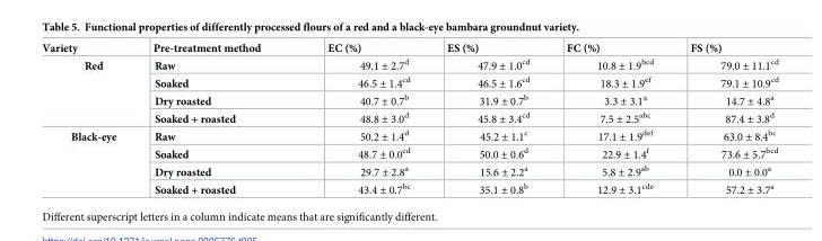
<table><thead><tr><td>Variety</td><td>Pre-treatment method</td><td>EC (%)</td><td>ES (%)</td><td>FC (%)</td><td>FS (%)</td></tr></thead><tbody><tr><td rowspan="4">Red</td><td>Raw</td><td>49.1 ± 2.7<sup>d</sup></td><td>47.9 ± 1.0<sup>cd</sup></td><td>10.8 ± 1.9<sup>bcd</sup></td><td>79.0 ± 11.1<sup>cd</sup></td></tr><tr><td>Soaked</td><td>46.5 ± 1.4<sup>cd</sup></td><td>46.5 ± 1.6<sup>cd</sup></td><td>18.3 ± 1.9<sup>ef</sup></td><td>79.1 ± 10.9<sup>cd</sup></td></tr><tr><td>Dry roasted</td><td>40.7 ± 0.7<sup>b</sup></td><td>31.9 ± 0.7<sup>b</sup></td><td>3.3 ± 3.1<sup>a</sup></td><td>14.7 ± 4.8<sup>a</sup></td></tr><tr><td>Soaked + roasted</td><td>48.8 ± 3.0<sup>d</sup></td><td>45.8 ± 3.4<sup>cd</sup></td><td>7.5 ± 2.5<sup>abc</sup></td><td>87.4 ± 3.8<sup>d</sup></td></tr><tr><td rowspan="4">Black-eye</td><td>Raw</td><td>50.2 ± 1.4<sup>d</sup></td><td>45.2 ± 1.1<sup>c</sup></td><td>17.1 ± 1.9<sup>def</sup></td><td>63.0 ± 8.4<sup>bc</sup></td></tr><tr><td>Soaked</td><td>48.7 ± 0.0<sup>cd</sup></td><td>50.0 ± 0.6<sup>d</sup></td><td>22.9 ± 1.4<sup>f</sup></td><td>73.6 ± 5.7<sup>bcd</sup></td></tr><tr><td>Dry roasted</td><td>29.7 ± 2.8<sup>a</sup></td><td>15.6 ± 2.2<sup>a</sup></td><td>5.8 ± 2.9<sup>ab</sup></td><td>0.0 ± 0.0<sup>a</sup></td></tr><tr><td>Soaked + roasted</td><td>43.4 ± 0.7<sup>bc</sup></td><td>35.1 ± 0.8<sup>b</sup></td><td>12.9 ± 3.1<sup>cde</sup></td><td>57.2 ± 3.7<sup>a</sup></td></tr></tbody></table>